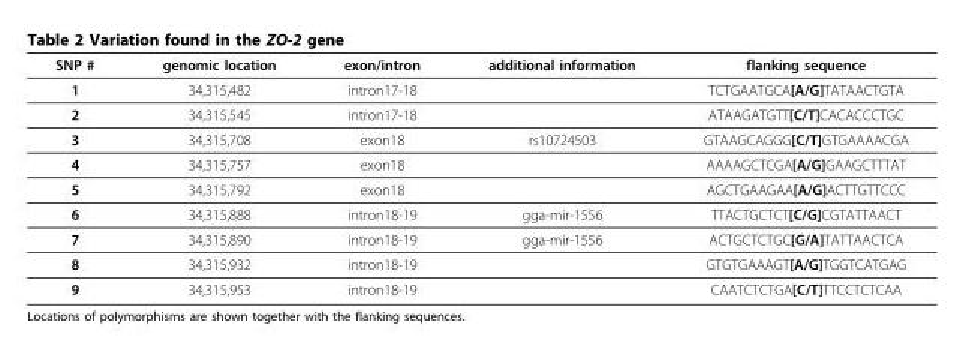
<table><thead><tr><td>SNP #</td><td>genomic location</td><td>exon/intron</td><td>additional information</td><td>flanking sequence</td></tr></thead><tbody><tr><td>1</td><td>34,315,482</td><td>intron17-18</td><td></td><td>TCTGAATGCA[A/G]TATAACTGTA</td></tr><tr><td>2</td><td>34,315,545</td><td>intron17-18</td><td></td><td>ATAAGATGTT[C/T]CACACCCTGC</td></tr><tr><td>3</td><td>34,315,708</td><td>exon18</td><td>rs10724503</td><td>GTAAGCAGGG[C/T]GTGAAAACGA</td></tr><tr><td>4</td><td>34,315,757</td><td>exon18</td><td></td><td>AAAAGCTCGA[A/G]GAAGCTTTAT</td></tr><tr><td>5</td><td>34,315,792</td><td>exon18</td><td></td><td>AGCTGAAGAA[A/G]ACTTGTTCCC</td></tr><tr><td>6</td><td>34,315,888</td><td>intron18-19</td><td>gga-mir-1556</td><td>TTACTGCTCT[C/G]CGTATTAACT</td></tr><tr><td>7</td><td>34,315,890</td><td>intron18-19</td><td>gga-mir-1556</td><td>ACTGCTCTGC[G/A]TATTAACTCA</td></tr><tr><td>8</td><td>34,315,932</td><td>intron18-19</td><td></td><td>GTGTGAAAGT[A/G]TGGTCATGAG</td></tr><tr><td>9</td><td>34,315,953</td><td>intron18-19</td><td></td><td>CAATCTCTGA[C/T]TTCCTCTCAA</td></tr></tbody></table>